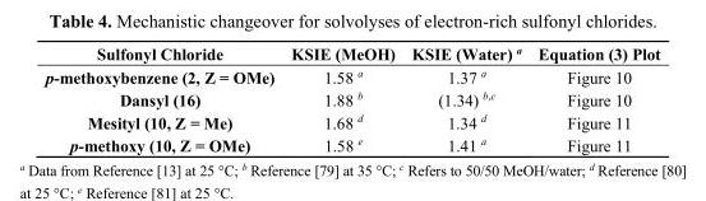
<table><thead><tr><td>Sulfonyl Chloride</td><td>KSIE (MeOH)</td><td>KSIE (Water) <sup>a</sup></td><td>Equation (3) Plot</td></tr></thead><tbody><tr><td>p-methoxybenzene (2, Z = OMe)</td><td>1.58 <sup>a</sup></td><td>1.37 <sup>a</sup></td><td>Figure 10</td></tr><tr><td>Dansyl (16)</td><td>1.88 <sup>b</sup></td><td>(1.34) <sup>b,c</sup></td><td>Figure 10</td></tr><tr><td>Mesityl (10, Z = Me)</td><td>1.68 <sup>d</sup></td><td>1.34 <sup>d</sup></td><td>Figure 11</td></tr><tr><td>p-methoxy (10, Z = OMe)</td><td>1.58 <sup>e</sup></td><td>1.41 <sup>a</sup></td><td>Figure 11</td></tr></tbody></table>